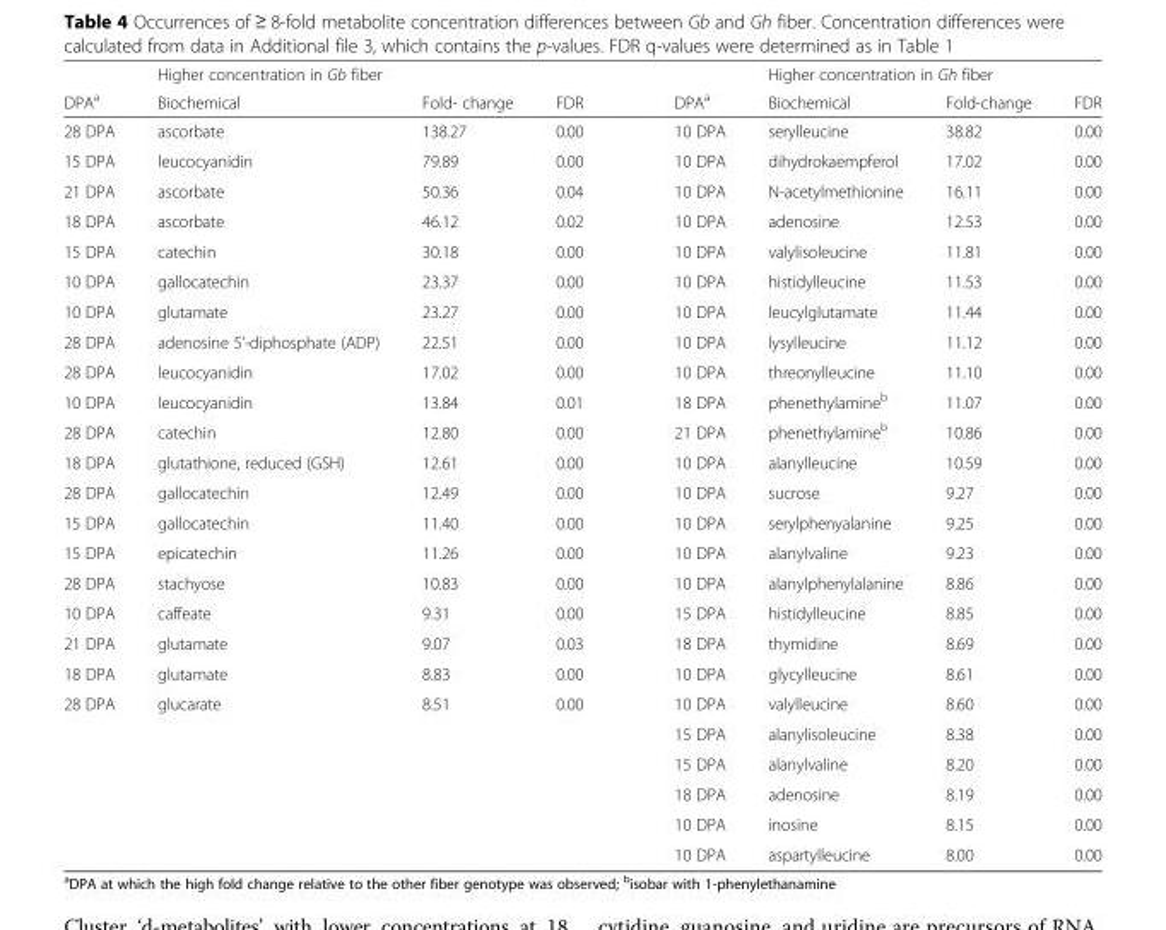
<table><thead><tr><td rowspan="2">DPA<sup>a</sup></td><td colspan="3">Higher concentration in Gb fiber</td><td rowspan="2">DPA<sup>a</sup></td><td colspan="3">Higher concentration in Gh fiber</td></tr><tr><td>Biochemical</td><td>Fold- change</td><td>FDR</td><td>Biochemical</td><td>Fold-change</td><td>FDR</td></tr></thead><tbody><tr><td>28 DPA</td><td>ascorbate</td><td>138.27</td><td>0.00</td><td>10 DPA</td><td>serylleucine</td><td>38.82</td><td>0.00</td></tr><tr><td>15 DPA</td><td>leucocyanidin</td><td>79.89</td><td>0.00</td><td>10 DPA</td><td>dihydrokaempferol</td><td>17.02</td><td>0.00</td></tr><tr><td>21 DPA</td><td>ascorbate</td><td>50.36</td><td>0.04</td><td>10 DPA</td><td>N-acetylmethionine</td><td>16.11</td><td>0.00</td></tr><tr><td>18 DPA</td><td>ascorbate</td><td>46.12</td><td>0.02</td><td>10 DPA</td><td>adenosine</td><td>12.53</td><td>0.00</td></tr><tr><td>15 DPA</td><td>catechin</td><td>30.18</td><td>0.00</td><td>10 DPA</td><td>valylisoleucine</td><td>11.81</td><td>0.00</td></tr><tr><td>10 DPA</td><td>gallocatechin</td><td>23.37</td><td>0.00</td><td>10 DPA</td><td>histidylleucine</td><td>11.53</td><td>0.00</td></tr><tr><td>10 DPA</td><td>glutamate</td><td>23.27</td><td>0.00</td><td>10 DPA</td><td>leucylglutamate</td><td>11.44</td><td>0.00</td></tr><tr><td>28 DPA</td><td>adenosine 5’-diphosphate (ADP)</td><td>22.51</td><td>0.00</td><td>10 DPA</td><td>lysylleucine</td><td>11.12</td><td>0.00</td></tr><tr><td>28 DPA</td><td>leucocyanidin</td><td>17.02</td><td>0.00</td><td>10 DPA</td><td>threonylleucine</td><td>11.10</td><td>0.00</td></tr><tr><td>10 DPA</td><td>leucocyanidin</td><td>13.84</td><td>0.01</td><td>18 DPA</td><td>phenethylamine<sup>b</sup></td><td>11.07</td><td>0.00</td></tr><tr><td>28 DPA</td><td>catechin</td><td>12.80</td><td>0.00</td><td>21 DPA</td><td>phenethylamine<sup>b</sup></td><td>10.86</td><td>0.00</td></tr><tr><td>18 DPA</td><td>glutathione, reduced (GSH)</td><td>12.61</td><td>0.00</td><td>10 DPA</td><td>alanylleucine</td><td>10.59</td><td>0.00</td></tr><tr><td>28 DPA</td><td>gallocatechin</td><td>12.49</td><td>0.00</td><td>10 DPA</td><td>sucrose</td><td>9.27</td><td>0.00</td></tr><tr><td>15 DPA</td><td>gallocatechin</td><td>11.40</td><td>0.00</td><td>10 DPA</td><td>serylphenyalanine</td><td>9.25</td><td>0.00</td></tr><tr><td>15 DPA</td><td>epicatechin</td><td>11.26</td><td>0.00</td><td>10 DPA</td><td>alanylvaline</td><td>9.23</td><td>0.00</td></tr><tr><td>28 DPA</td><td>stachyose</td><td>10.83</td><td>0.00</td><td>10 DPA</td><td>alanylphenylalanine</td><td>8.86</td><td>0.00</td></tr><tr><td>10 DPA</td><td>caffeate</td><td>9.31</td><td>0.00</td><td>15 DPA</td><td>histidylleucine</td><td>8.85</td><td>0.00</td></tr><tr><td>21 DPA</td><td>glutamate</td><td>9.07</td><td>0.03</td><td>18 DPA</td><td>thymidine</td><td>8.69</td><td>0.00</td></tr><tr><td>18 DPA</td><td>glutamate</td><td>8.83</td><td>0.00</td><td>10 DPA</td><td>glycylleucine</td><td>8.61</td><td>0.00</td></tr><tr><td rowspan="6">28 DPA</td><td>glucarate</td><td>8.51</td><td>0.00</td><td>10 DPA</td><td>valylleucine</td><td>8.60</td><td>0.00</td></tr><tr><td></td><td></td><td></td><td>15 DPA</td><td>alanylisoleucine</td><td>8.38</td><td>0.00</td></tr><tr><td></td><td></td><td></td><td>15 DPA</td><td>alanylvaline</td><td>8.20</td><td>0.00</td></tr><tr><td></td><td></td><td></td><td>18 DPA</td><td>adenosine</td><td>8.19</td><td>0.00</td></tr><tr><td></td><td></td><td></td><td>10 DPA</td><td>inosine</td><td>8.15</td><td>0.00</td></tr><tr><td></td><td></td><td></td><td>10 DPA</td><td>aspartylleucine</td><td>8.00</td><td>0.00</td></tr></tbody></table>